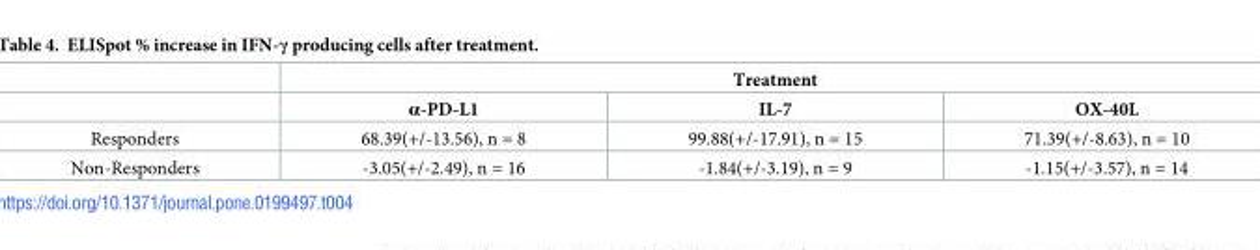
<table><thead><tr><td rowspan="2"></td><td colspan="3">Treatment</td></tr><tr><td>α-PD-L1</td><td>IL-7</td><td>OX-40L</td></tr></thead><tbody><tr><td>Responders</td><td>68.39(+/-13.56), n = 8</td><td>99.88(+/-17.91), n = 15</td><td>71.39(+/-8.63), n = 10</td></tr><tr><td>Non-Responders</td><td>-3.05(+/-2.49), n = 16</td><td>-1.84(+/-3.19), n = 9</td><td>-1.15(+/-3.57), n = 14</td></tr></tbody></table>